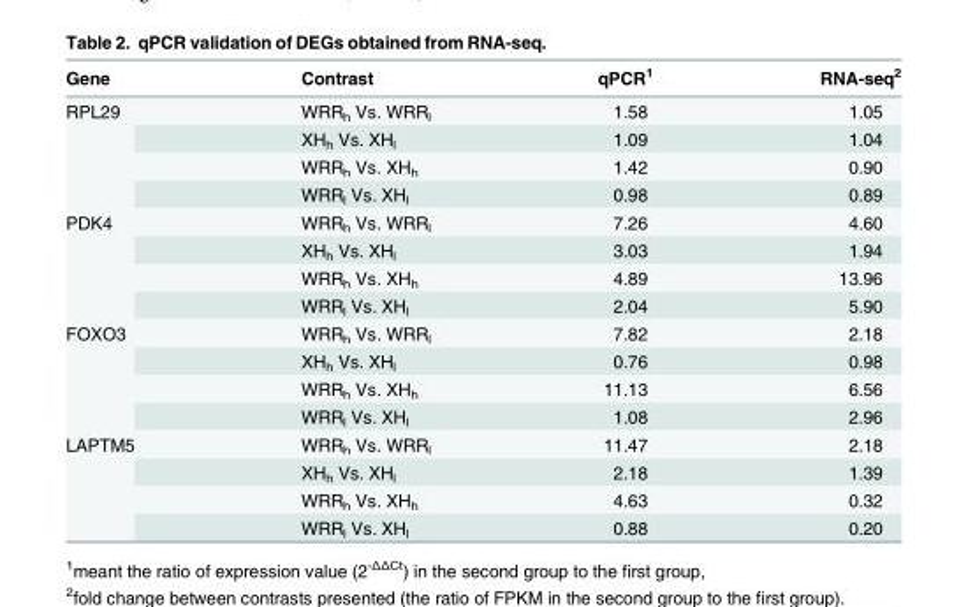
<table><thead><tr><td>Gene</td><td>Contrast</td><td>qPCR<sup>1</sup></td><td>RNA-seq<sup>2</sup></td></tr></thead><tbody><tr><td rowspan="4">RPL29</td><td>WRR<sub>h</sub> Vs. WRR<sub>l</sub></td><td>1.58</td><td>1.05</td></tr><tr><td>XH<sub>h</sub> Vs. XH<sub>l</sub></td><td>1.09</td><td>1.04</td></tr><tr><td>WRR<sub>h</sub> Vs. XH<sub>h</sub></td><td>1.42</td><td>0.90</td></tr><tr><td>WRR<sub>l</sub> Vs. XH<sub>l</sub></td><td>0.98</td><td>0.89</td></tr><tr><td rowspan="4">PDK4</td><td>WRR<sub>h</sub> Vs. WRR<sub>l</sub></td><td>7.26</td><td>4.60</td></tr><tr><td>XH<sub>h</sub> Vs. XH<sub>l</sub></td><td>3.03</td><td>1.94</td></tr><tr><td>WRR<sub>h</sub> Vs. XH<sub>h</sub></td><td>4.89</td><td>13.96</td></tr><tr><td>WRR<sub>l</sub> Vs. XH<sub>l</sub></td><td>2.04</td><td>5.90</td></tr><tr><td rowspan="4">FOXO3</td><td>WRR<sub>h</sub> Vs. WRR<sub>l</sub></td><td>7.82</td><td>2.18</td></tr><tr><td>XH<sub>h</sub> Vs. XH<sub>l</sub></td><td>0.76</td><td>0.98</td></tr><tr><td>WRR<sub>h</sub> Vs. XH<sub>h</sub></td><td>11.13</td><td>6.56</td></tr><tr><td>WRR<sub>l</sub> Vs. XH<sub>l</sub></td><td>1.08</td><td>2.96</td></tr><tr><td rowspan="4">LAPTM5</td><td>WRR<sub>h</sub> Vs. WRR<sub>l</sub></td><td>11.47</td><td>2.18</td></tr><tr><td>XH<sub>h</sub> Vs. XH<sub>l</sub></td><td>2.18</td><td>1.39</td></tr><tr><td>WRR<sub>h</sub> Vs. XH<sub>h</sub></td><td>4.63</td><td>0.32</td></tr><tr><td>WRR<sub>l</sub> Vs. XH<sub>l</sub></td><td>0.88</td><td>0.20</td></tr></tbody></table>